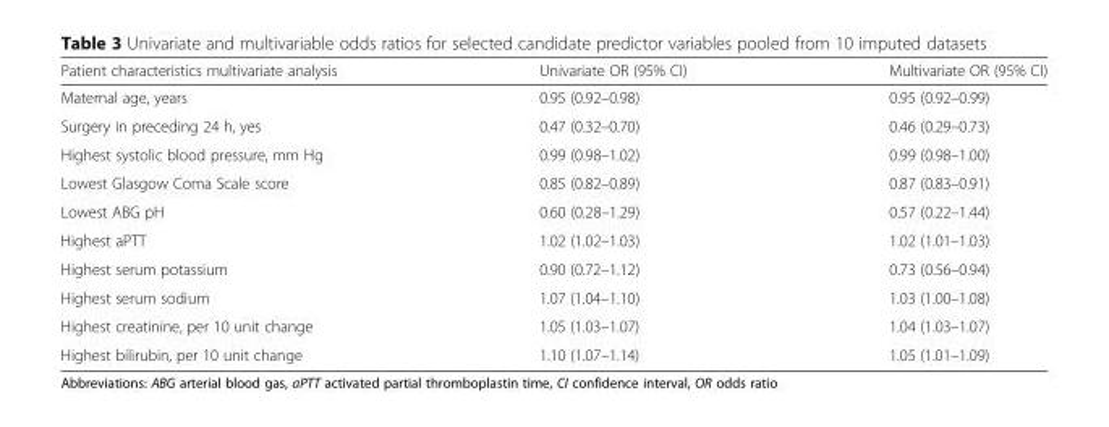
<table><thead><tr><td>Patient characteristics multivariate analysis</td><td>Univariate OR (95% CI)</td><td>Multivariate OR (95% CI)</td></tr></thead><tbody><tr><td>Maternal age, years</td><td>0.95 (0.92–0.98)</td><td>0.95 (0.92–0.99)</td></tr><tr><td>Surgery in preceding 24 h, yes</td><td>0.47 (0.32–0.70)</td><td>0.46 (0.29–0.73)</td></tr><tr><td>Highest systolic blood pressure, mm Hg</td><td>0.99 (0.98–1.02)</td><td>0.99 (0.98–1.00)</td></tr><tr><td>Lowest Glasgow Coma Scale score</td><td>0.85 (0.82–0.89)</td><td>0.87 (0.83–0.91)</td></tr><tr><td>Lowest ABG pH</td><td>0.60 (0.28–1.29)</td><td>0.57 (0.22–1.44)</td></tr><tr><td>Highest aPTT</td><td>1.02 (1.02–1.03)</td><td>1.02 (1.01–1.03)</td></tr><tr><td>Highest serum potassium</td><td>0.90 (0.72–1.12)</td><td>0.73 (0.56–0.94)</td></tr><tr><td>Highest serum sodium</td><td>1.07 (1.04–1.10)</td><td>1.03 (1.00–1.08)</td></tr><tr><td>Highest creatinine, per 10 unit change</td><td>1.05 (1.03–1.07)</td><td>1.04 (1.03–1.07)</td></tr><tr><td>Highest bilirubin, per 10 unit change</td><td>1.10 (1.07–1.14)</td><td>1.05 (1.01–1.09)</td></tr></tbody></table>